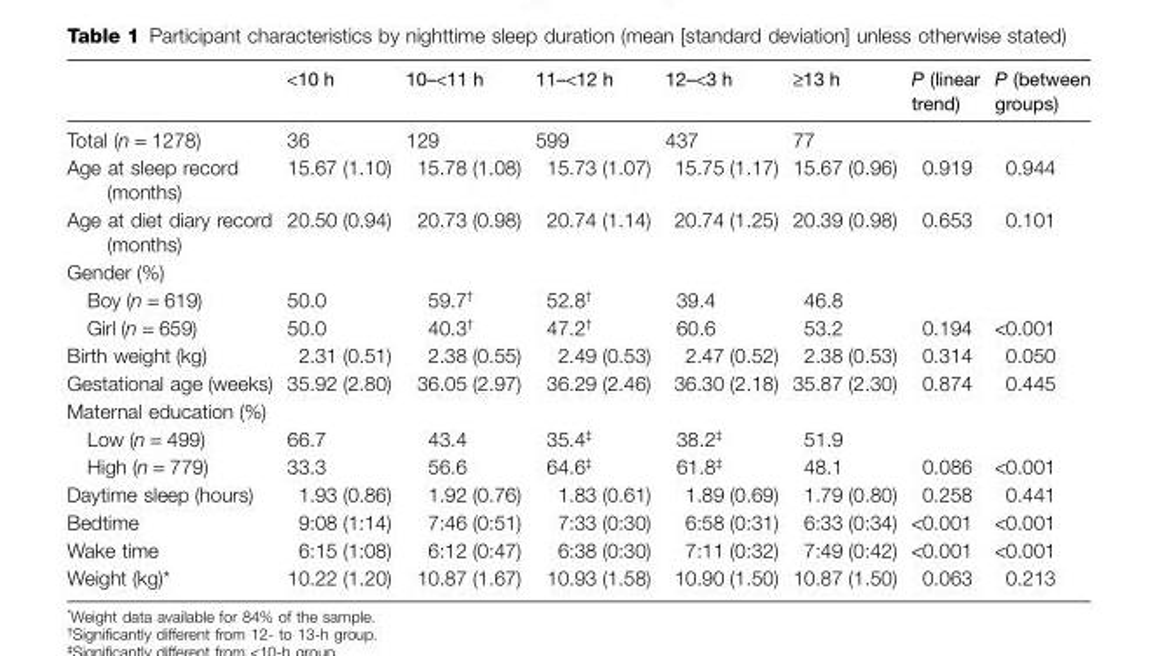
<table><thead><tr><td></td><td>&lt;10 h</td><td>10–&lt;11 h</td><td>11–&lt;12 h</td><td>12–&lt;3 h</td><td>≥13 h</td><td>P (linear trend)</td><td>P (between groups)</td></tr></thead><tbody><tr><td>Total (n = 1278)</td><td>36</td><td>129</td><td>599</td><td>437</td><td>77</td><td></td><td></td></tr><tr><td>Age at sleep record (months)</td><td>15.67 (1.10)</td><td>15.78 (1.08)</td><td>15.73 (1.07)</td><td>15.75 (1.17)</td><td>15.67 (0.96)</td><td>0.919</td><td>0.944</td></tr><tr><td>Age at diet diary record (months)</td><td>20.50 (0.94)</td><td>20.73 (0.98)</td><td>20.74 (1.14)</td><td>20.74 (1.25)</td><td>20.39 (0.98)</td><td>0.653</td><td>0.101</td></tr><tr><td colspan="8">Gender (%)</td></tr><tr><td>Boy (n = 619)</td><td>50.0</td><td>59.7†</td><td>52.8†</td><td>39.4</td><td>46.8</td><td></td><td></td></tr><tr><td>Girl (n = 659)</td><td>50.0</td><td>40.3†</td><td>47.2†</td><td>60.6</td><td>53.2</td><td>0.194</td><td>&lt;0.001</td></tr><tr><td>Birth weight (kg)</td><td>2.31 (0.51)</td><td>2.38 (0.55)</td><td>2.49 (0.53)</td><td>2.47 (0.52)</td><td>2.38 (0.53)</td><td>0.314</td><td>0.050</td></tr><tr><td>Gestational age (weeks)</td><td>35.92 (2.80)</td><td>36.05 (2.97)</td><td>36.29 (2.46)</td><td>36.30 (2.18)</td><td>35.87 (2.30)</td><td>0.874</td><td>0.445</td></tr><tr><td colspan="8">Maternal education (%)</td></tr><tr><td>Low (n = 499)</td><td>66.7</td><td>43.4</td><td>35.4‡</td><td>38.2‡</td><td>51.9</td><td></td><td></td></tr><tr><td>High (n = 779)</td><td>33.3</td><td>56.6</td><td>64.6‡</td><td>61.8‡</td><td>48.1</td><td>0.086</td><td>&lt;0.001</td></tr><tr><td>Daytime sleep (hours)</td><td>1.93 (0.86)</td><td>1.92 (0.76)</td><td>1.83 (0.61)</td><td>1.89 (0.69)</td><td>1.79 (0.80)</td><td>0.258</td><td>0.441</td></tr><tr><td>Bedtime</td><td>9:08 (1:14)</td><td>7:46 (0:51)</td><td>7:33 (0:30)</td><td>6:58 (0:31)</td><td>6:33 (0:34)</td><td>&lt;0.001</td><td>&lt;0.001</td></tr><tr><td>Wake time</td><td>6:15 (1:08)</td><td>6:12 (0:47)</td><td>6:38 (0:30)</td><td>7:11 (0:32)</td><td>7:49 (0:42)</td><td>&lt;0.001</td><td>&lt;0.001</td></tr><tr><td>Weight (kg)*</td><td>10.22 (1.20)</td><td>10.87 (1.67)</td><td>10.93 (1.58)</td><td>10.90 (1.50)</td><td>10.87 (1.50)</td><td>0.063</td><td>0.213</td></tr></tbody></table>